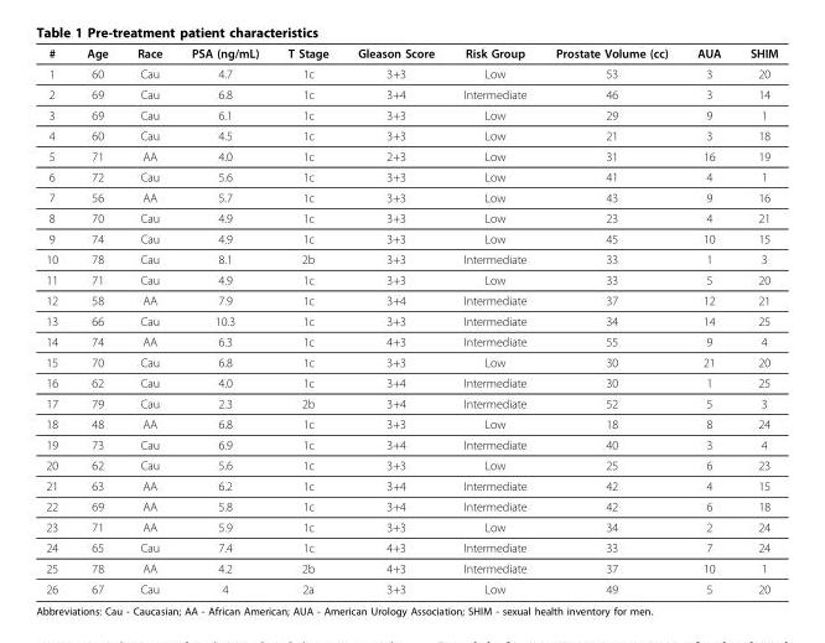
<table><thead><tr><td>#</td><td>Age</td><td>Race</td><td>PSA (ng/mL)</td><td>T Stage</td><td>Gleason Score</td><td>Risk Group</td><td>Prostate Volume (cc)</td><td>AUA</td><td>SHIM</td></tr></thead><tbody><tr><td>1</td><td>60</td><td>Cau</td><td>4.7</td><td>1c</td><td>3+3</td><td>Low</td><td>53</td><td>3</td><td>20</td></tr><tr><td>2</td><td>69</td><td>Cau</td><td>6.8</td><td>1c</td><td>3+4</td><td>Intermediate</td><td>46</td><td>3</td><td>14</td></tr><tr><td>3</td><td>69</td><td>Cau</td><td>6.1</td><td>1c</td><td>3+3</td><td>Low</td><td>29</td><td>9</td><td>1</td></tr><tr><td>4</td><td>60</td><td>Cau</td><td>4.5</td><td>1c</td><td>3+3</td><td>Low</td><td>21</td><td>3</td><td>18</td></tr><tr><td>5</td><td>71</td><td>AA</td><td>4.0</td><td>1c</td><td>2+3</td><td>Low</td><td>31</td><td>16</td><td>19</td></tr><tr><td>6</td><td>72</td><td>Cau</td><td>5.6</td><td>1c</td><td>3+3</td><td>Low</td><td>41</td><td>4</td><td>1</td></tr><tr><td>7</td><td>56</td><td>AA</td><td>5.7</td><td>1c</td><td>3+3</td><td>Low</td><td>43</td><td>9</td><td>16</td></tr><tr><td>8</td><td>70</td><td>Cau</td><td>4.9</td><td>1c</td><td>3+3</td><td>Low</td><td>23</td><td>4</td><td>21</td></tr><tr><td>9</td><td>74</td><td>Cau</td><td>4.9</td><td>1c</td><td>3+3</td><td>Low</td><td>45</td><td>10</td><td>15</td></tr><tr><td>10</td><td>78</td><td>Cau</td><td>8.1</td><td>2b</td><td>3+3</td><td>Intermediate</td><td>33</td><td>1</td><td>3</td></tr><tr><td>11</td><td>71</td><td>Cau</td><td>4.9</td><td>1c</td><td>3+3</td><td>Low</td><td>33</td><td>5</td><td>20</td></tr><tr><td>12</td><td>58</td><td>AA</td><td>7.9</td><td>1c</td><td>3+4</td><td>Intermediate</td><td>37</td><td>12</td><td>21</td></tr><tr><td>13</td><td>66</td><td>Cau</td><td>10.3</td><td>1c</td><td>3+3</td><td>Intermediate</td><td>34</td><td>14</td><td>25</td></tr><tr><td>14</td><td>74</td><td>AA</td><td>6.3</td><td>1c</td><td>4+3</td><td>Intermediate</td><td>55</td><td>9</td><td>4</td></tr><tr><td>15</td><td>70</td><td>Cau</td><td>6.8</td><td>1c</td><td>3+3</td><td>Low</td><td>30</td><td>21</td><td>20</td></tr><tr><td>16</td><td>62</td><td>Cau</td><td>4.0</td><td>1c</td><td>3+4</td><td>Intermediate</td><td>30</td><td>1</td><td>25</td></tr><tr><td>17</td><td>79</td><td>Cau</td><td>2.3</td><td>2b</td><td>3+4</td><td>Intermediate</td><td>52</td><td>5</td><td>3</td></tr><tr><td>18</td><td>48</td><td>AA</td><td>6.8</td><td>1c</td><td>3+3</td><td>Low</td><td>18</td><td>8</td><td>24</td></tr><tr><td>19</td><td>73</td><td>Cau</td><td>6.9</td><td>1c</td><td>3+4</td><td>Intermediate</td><td>40</td><td>3</td><td>4</td></tr><tr><td>20</td><td>62</td><td>Cau</td><td>5.6</td><td>1c</td><td>3+3</td><td>Low</td><td>25</td><td>6</td><td>23</td></tr><tr><td>21</td><td>63</td><td>AA</td><td>6.2</td><td>1c</td><td>3+4</td><td>Intermediate</td><td>42</td><td>4</td><td>15</td></tr><tr><td>22</td><td>69</td><td>AA</td><td>5.8</td><td>1c</td><td>3+4</td><td>Intermediate</td><td>42</td><td>6</td><td>18</td></tr><tr><td>23</td><td>71</td><td>AA</td><td>5.9</td><td>1c</td><td>3+3</td><td>Low</td><td>34</td><td>2</td><td>24</td></tr><tr><td>24</td><td>65</td><td>Cau</td><td>7.4</td><td>1c</td><td>4+3</td><td>Intermediate</td><td>33</td><td>7</td><td>24</td></tr><tr><td>25</td><td>78</td><td>AA</td><td>4.2</td><td>2b</td><td>4+3</td><td>Intermediate</td><td>37</td><td>10</td><td>1</td></tr><tr><td>26</td><td>67</td><td>Cau</td><td>4</td><td>2a</td><td>3+3</td><td>Low</td><td>49</td><td>5</td><td>20</td></tr></tbody></table>